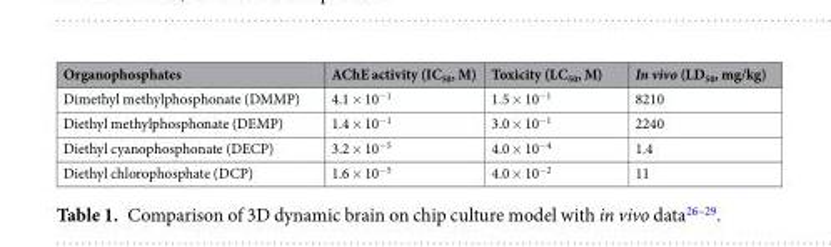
<table><thead><tr><td>Organophosphates</td><td>AChE activity (IC<sub>50</sub>, M)</td><td>Toxicity (LC<sub>50</sub>, M)</td><td>In vivo (LD<sub>50</sub>, mg/kg)</td></tr></thead><tbody><tr><td>Dimethyl methylphosphonate (DMMP)</td><td>4.1 × 10<sup>−1</sup></td><td>1.5 × 10<sup>−1</sup></td><td>8210</td></tr><tr><td>Diethyl methylphosphonate (DEMP)</td><td>1.4 × 10<sup>−1</sup></td><td>3.0 × 10<sup>−1</sup></td><td>2240</td></tr><tr><td>Diethyl cyanophosphonate (DECP)</td><td>3.2 × 10<sup>−5</sup></td><td>4.0 × 10<sup>−4</sup></td><td>1.4</td></tr><tr><td>Diethyl chlorophosphate (DCP)</td><td>1.6 × 10<sup>−5</sup></td><td>4.0 × 10<sup>−2</sup></td><td>11</td></tr></tbody></table>